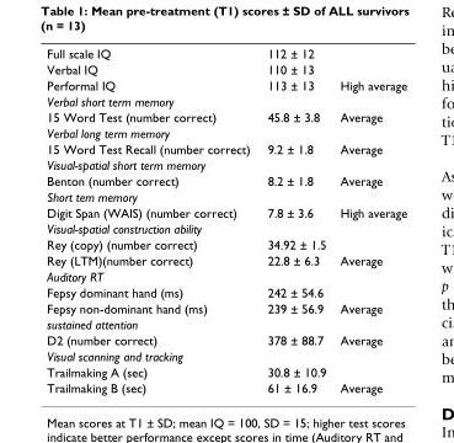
<table><tbody><tr><td>Full scale IQ</td><td>112 ± 12</td><td></td></tr><tr><td>Verbal IQ</td><td>110 ± 13</td><td></td></tr><tr><td>Performal IQ</td><td>113 ± 13</td><td>High average</td></tr><tr><td colspan="3">Verbal short term memory</td></tr><tr><td>15 Word Test (number correct)</td><td>45.8 ± 3.8</td><td>Average</td></tr><tr><td colspan="3">Verbal long term memory</td></tr><tr><td>15 Word Test Recall (number correct)</td><td>9.2 ± 1.8</td><td>Average</td></tr><tr><td colspan="3">Visual-spatial short term memory</td></tr><tr><td>Benton (number correct)</td><td>8.2 ± 1.8</td><td>Average</td></tr><tr><td colspan="3">Short tem memory</td></tr><tr><td>Digit Span (WAIS) (number correct)</td><td>7.8 ± 3.6</td><td>High average</td></tr><tr><td colspan="3">Visual-spatial construction ability</td></tr><tr><td>Rey (copy) (number correct)</td><td>34.92 ± 1.5</td><td></td></tr><tr><td>Rey (LTM)(number correct)</td><td>22.8 ± 6.3</td><td>Average</td></tr><tr><td colspan="3">Auditory RT</td></tr><tr><td>Fepsy dominant hand (ms)</td><td>242 ± 54.6</td><td></td></tr><tr><td>Fepsy non-dominant hand (ms)</td><td>239 ± 56.9</td><td>Average</td></tr><tr><td colspan="3">sustained attention</td></tr><tr><td>D2 (number correct)</td><td>378 ± 88.7</td><td>Average</td></tr><tr><td colspan="3">Visual scanning and tracking</td></tr><tr><td>Trailmaking A (sec)</td><td>30.8 ± 10.9</td><td></td></tr><tr><td>Trailmaking B (sec)</td><td>61 ± 16.9</td><td>Average</td></tr></tbody></table>